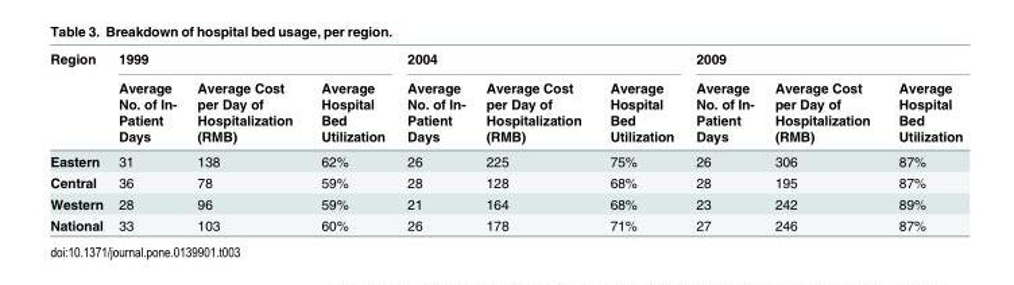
<table><thead><tr><td rowspan="2">Region</td><td colspan="3">1999</td><td colspan="3">2004</td><td colspan="3">2009</td></tr><tr><td>Average No. of In- Patient Days</td><td>Average Cost per Day of Hospitalization (RMB)</td><td>Average Hospital Bed Utilization</td><td>Average No. of In- Patient Days</td><td>Average Cost per Day of Hospitalization (RMB)</td><td>Average Hospital Bed Utilization</td><td>Average No. of In- Patient Days</td><td>Average Cost per Day of Hospitalization (RMB)</td><td>Average Hospital Bed Utilization</td></tr></thead><tbody><tr><td>Eastern</td><td>31</td><td>138</td><td>62%</td><td>26</td><td>225</td><td>75%</td><td>26</td><td>306</td><td>87%</td></tr><tr><td>Central</td><td>36</td><td>78</td><td>59%</td><td>28</td><td>128</td><td>68%</td><td>28</td><td>195</td><td>87%</td></tr><tr><td>Western</td><td>28</td><td>96</td><td>59%</td><td>21</td><td>164</td><td>68%</td><td>23</td><td>242</td><td>89%</td></tr><tr><td>National</td><td>33</td><td>103</td><td>60%</td><td>26</td><td>178</td><td>71%</td><td>27</td><td>246</td><td>87%</td></tr></tbody></table>